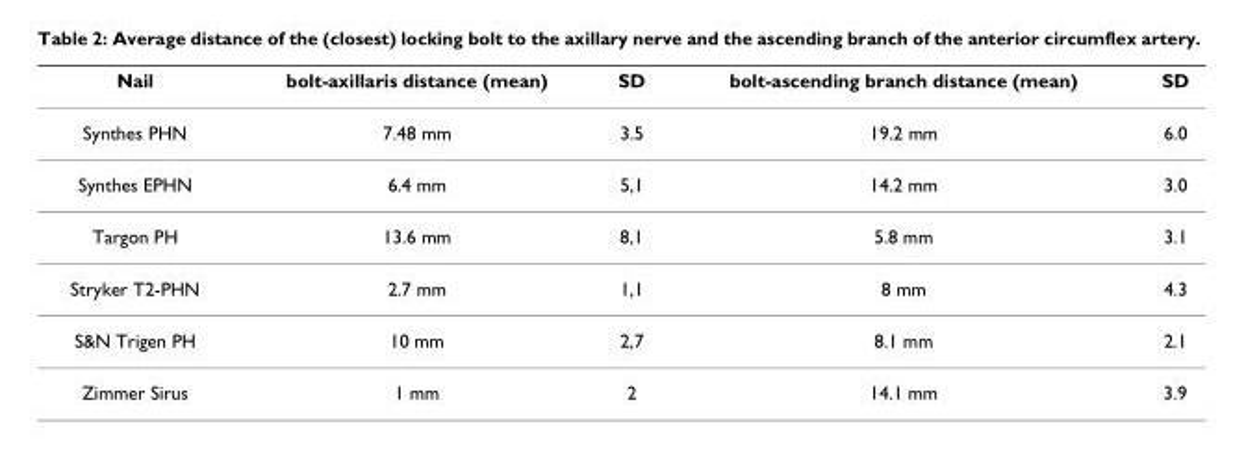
<table><thead><tr><td>Nail</td><td>bolt-axillaris distance (mean)</td><td>SD</td><td>bolt-ascending branch distance (mean)</td><td>SD</td></tr></thead><tbody><tr><td>Synthes PHN</td><td>7.48 mm</td><td>3.5</td><td>19.2 mm</td><td>6.0</td></tr><tr><td>Synthes EPHN</td><td>6.4 mm</td><td>5,1</td><td>14.2 mm</td><td>3.0</td></tr><tr><td>Targon PH</td><td>13.6 mm</td><td>8,1</td><td>5.8 mm</td><td>3.1</td></tr><tr><td>Stryker T2-PHN</td><td>2.7 mm</td><td>1,1</td><td>8 mm</td><td>4.3</td></tr><tr><td>S&amp;N Trigen PH</td><td>10 mm</td><td>2,7</td><td>8.1 mm</td><td>2.1</td></tr><tr><td>Zimmer Sirus</td><td>1 mm</td><td>2</td><td>14.1 mm</td><td>3.9</td></tr></tbody></table>